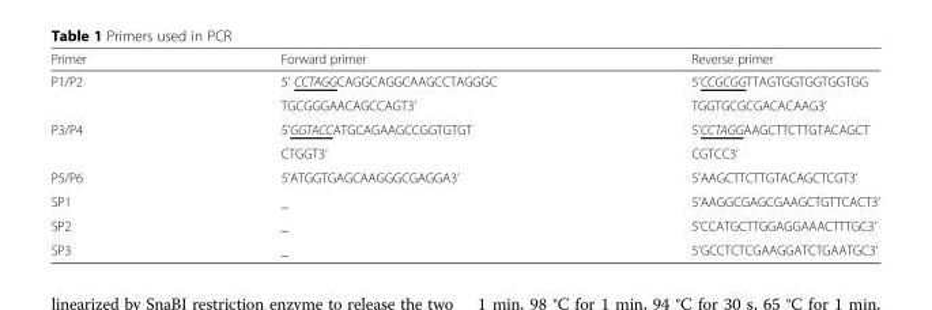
<table><thead><tr><td>Primer</td><td>Forward primer</td><td>Reverse primer</td></tr></thead><tbody><tr><td rowspan="2">P1/P2</td><td>5’ CCTAGGCAGGCAGGCAAGCCTAGGGC</td><td>5’CCGCGGTTAGTGGTGGTGGTGG</td></tr><tr><td>TGCGGGAACAGCCAGT3’</td><td>TGGTGCGCGACACAAG3’</td></tr><tr><td rowspan="2">P3/P4</td><td>5’GGTACCATGCAGAAGCCGGTGTGT</td><td>5’CCTAGGAAGCTTCTTGTACAGCT</td></tr><tr><td>CTGGT3’</td><td>CGTCC3’</td></tr><tr><td>P5/P6</td><td>5’ATGGTGAGCAAGGGCGAGGA3’</td><td>5’AAGCTTCTTGTACAGCTCGT3’</td></tr><tr><td>SP1</td><td>_</td><td>5’AAGGCGAGCGAAGCTGTTCACT3’</td></tr><tr><td>SP2</td><td>_</td><td>5’CCATGCTTGGAGGAAACTTTGC3’</td></tr><tr><td>SP3</td><td>_</td><td>5’GCCTCTCGAAGGATCTGAATGC3’</td></tr></tbody></table>